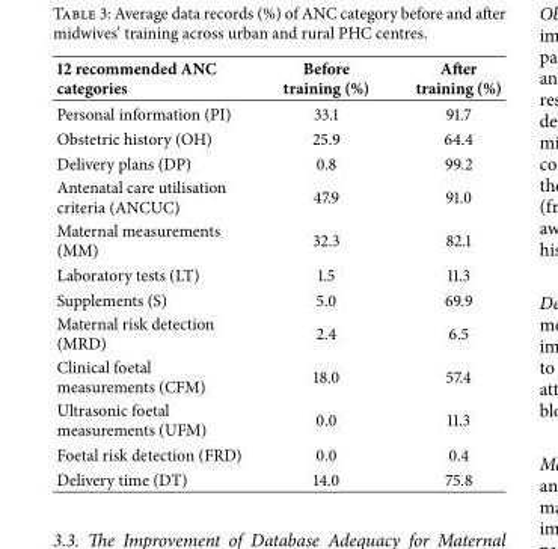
<table><thead><tr><td>12 recommended ANC categories</td><td>Before training (%)</td><td>After training (%)</td></tr></thead><tbody><tr><td>Personal information (PI)</td><td>33.1</td><td>91.7</td></tr><tr><td>Obstetric history (OH)</td><td>25.9</td><td>64.4</td></tr><tr><td>Delivery plans (DP)</td><td>0.8</td><td>99.2</td></tr><tr><td>Antenatal care utilisation criteria (ANCUC)</td><td>47.9</td><td>91.0</td></tr><tr><td>Maternal measurements (MM)</td><td>32.3</td><td>82.1</td></tr><tr><td>Laboratory tests (LT)</td><td>1.5</td><td>11.3</td></tr><tr><td>Supplements (S)</td><td>5.0</td><td>69.9</td></tr><tr><td>Maternal risk detection (MRD)</td><td>2.4</td><td>6.5</td></tr><tr><td>Clinical foetal measurements (CFM)</td><td>18.0</td><td>57.4</td></tr><tr><td>Ultrasonic foetal measurements (UFM)</td><td>0.0</td><td>11.3</td></tr><tr><td>Foetal risk detection (FRD)</td><td>0.0</td><td>0.4</td></tr><tr><td>Delivery time (DT)</td><td>14.0</td><td>75.8</td></tr></tbody></table>